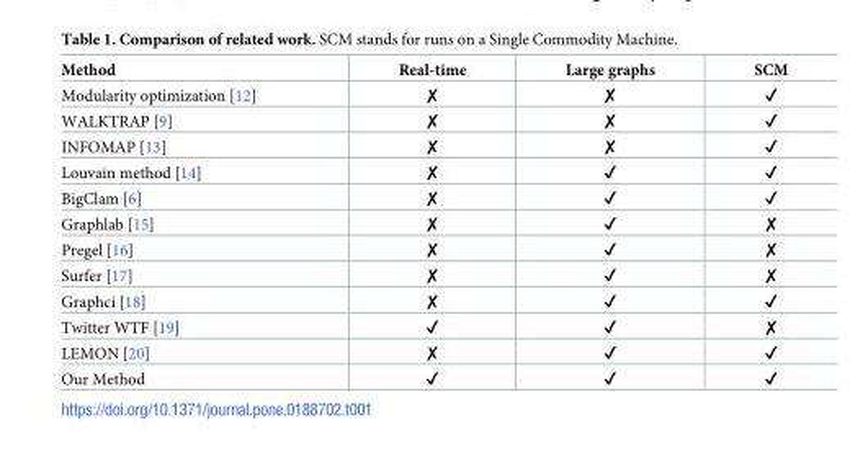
<table><thead><tr><td>Method</td><td>Real-time</td><td>Large graphs</td><td>SCM</td></tr></thead><tbody><tr><td>Modularity optimization [12]</td><td>✘</td><td>✘</td><td>✔</td></tr><tr><td>WALKTRAP [9]</td><td>✘</td><td>✘</td><td>✔</td></tr><tr><td>INFOMAP [13]</td><td>✘</td><td>✘</td><td>✔</td></tr><tr><td>Louvain method [14]</td><td>✘</td><td>✔</td><td>✔</td></tr><tr><td>BigClam [6]</td><td>✘</td><td>✔</td><td>✔</td></tr><tr><td>Graphlab [15]</td><td>✘</td><td>✔</td><td>✘</td></tr><tr><td>Pregel [16]</td><td>✘</td><td>✔</td><td>✘</td></tr><tr><td>Surfer [17]</td><td>✘</td><td>✔</td><td>✘</td></tr><tr><td>Graphci [18]</td><td>✘</td><td>✔</td><td>✔</td></tr><tr><td>Twitter WTF [19]</td><td>✔</td><td>✔</td><td>✘</td></tr><tr><td>LEMON [20]</td><td>✘</td><td>✔</td><td>✔</td></tr><tr><td>Our Method</td><td>✔</td><td>✔</td><td>✔</td></tr></tbody></table>